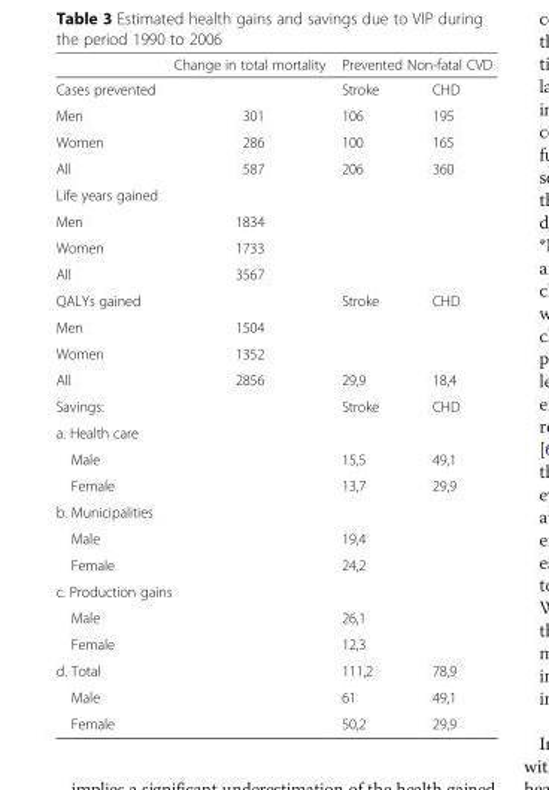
<table><thead><tr><td rowspan="2">Cases prevented</td><td rowspan="2">Change in total mortality</td><td colspan="2">Prevented Non-fatal CVD</td></tr><tr><td>Stroke</td><td>CHD</td></tr></thead><tbody><tr><td>Men</td><td>301</td><td>106</td><td>195</td></tr><tr><td>Women</td><td>286</td><td>100</td><td>165</td></tr><tr><td>All</td><td>587</td><td>206</td><td>360</td></tr><tr><td colspan="4">Life years gained</td></tr><tr><td>Men</td><td>1834</td><td colspan="2"></td></tr><tr><td>Women</td><td>1733</td><td colspan="2"></td></tr><tr><td>All</td><td>3567</td><td colspan="2"></td></tr><tr><td>QALYs gained</td><td></td><td>Stroke</td><td>CHD</td></tr><tr><td>Men</td><td>1504</td><td></td><td></td></tr><tr><td>Women</td><td>1352</td><td></td><td></td></tr><tr><td>All</td><td>2856</td><td>29,9</td><td>18,4</td></tr><tr><td>Savings:</td><td></td><td>Stroke</td><td>CHD</td></tr><tr><td colspan="4">a. Health care</td></tr><tr><td>Male</td><td></td><td>15,5</td><td>49,1</td></tr><tr><td>Female</td><td></td><td>13,7</td><td>29,9</td></tr><tr><td colspan="4">b. Municipalities</td></tr><tr><td>Male</td><td></td><td>19,4</td><td></td></tr><tr><td>Female</td><td></td><td>24,2</td><td></td></tr><tr><td colspan="4">c. Production gains</td></tr><tr><td>Male</td><td></td><td>26,1</td><td></td></tr><tr><td>Female</td><td></td><td>12,3</td><td></td></tr><tr><td>d. Total</td><td></td><td>111,2</td><td>78,9</td></tr><tr><td>Male</td><td></td><td>61</td><td>49,1</td></tr><tr><td>Female</td><td></td><td>50,2</td><td>29,9</td></tr></tbody></table>